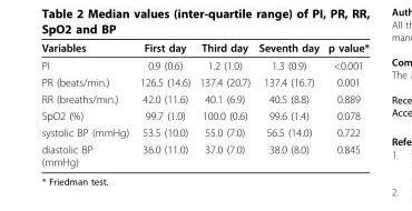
<table><thead><tr><td>Variables</td><td>First day</td><td>Third day</td><td>Seventh day</td><td>p value*</td></tr></thead><tbody><tr><td>PI</td><td>0.9 (0.6)</td><td>1.2 (1.0)</td><td>1.3 (0.9)</td><td>&lt;0.001</td></tr><tr><td>PR (beats/min.)</td><td>126.5 (14.6)</td><td>137.4 (20.7)</td><td>137.4 (16.7)</td><td>0.001</td></tr><tr><td>RR (breaths/min.)</td><td>42.0 (11.6)</td><td>40.1 (6.9)</td><td>40.5 (8.8)</td><td>0.889</td></tr><tr><td>SpO2 (%)</td><td>99.7 (1.0)</td><td>100.0 (0.6)</td><td>99.6 (1.4)</td><td>0.078</td></tr><tr><td>systolic BP (mmHg)</td><td>53.5 (10.0)</td><td>55.0 (7.0)</td><td>56.5 (14.0)</td><td>0.722</td></tr><tr><td>diastolic BP (mmHg)</td><td>36.0 (11.0)</td><td>37.0 (7.0)</td><td>38.0 (8.0)</td><td>0.845</td></tr></tbody></table>